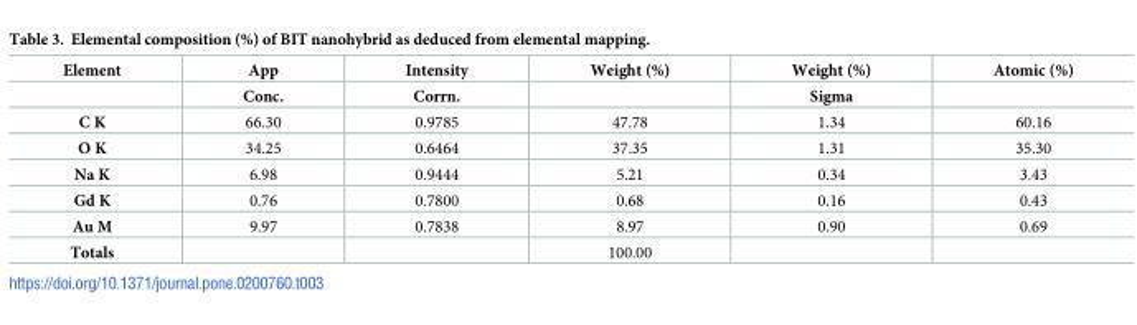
<table><thead><tr><td rowspan="2">Element</td><td rowspan="2">App Conc.</td><td rowspan="2">Intensity Corrn.</td><td rowspan="2">Weight (%)</td><td rowspan="2">Weight (%) Sigma</td><td rowspan="2">Atomic (%)</td></tr><tr></tr></thead><tbody><tr><td>C K</td><td>66.30</td><td>0.9785</td><td>47.78</td><td>1.34</td><td>60.16</td></tr><tr><td>O K</td><td>34.25</td><td>0.6464</td><td>37.35</td><td>1.31</td><td>35.30</td></tr><tr><td>Na K</td><td>6.98</td><td>0.9444</td><td>5.21</td><td>0.34</td><td>3.43</td></tr><tr><td>Gd K</td><td>0.76</td><td>0.7800</td><td>0.68</td><td>0.16</td><td>0.43</td></tr><tr><td>Au M</td><td>9.97</td><td>0.7838</td><td>8.97</td><td>0.90</td><td>0.69</td></tr><tr><td>Totals</td><td></td><td></td><td>100.00</td><td></td><td></td></tr></tbody></table>